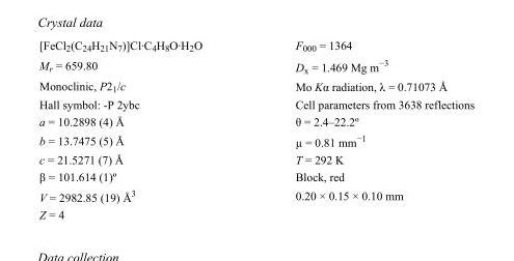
<table><tbody><tr><td>[FeCl<sub>2</sub>(C<sub>24</sub>H<sub>21</sub>N<sub>7</sub>)]Cl·C<sub>4</sub>H<sub>8</sub>O·H<sub>2</sub>O</td><td>F000 = 1364</td></tr><tr><td>M<sub>r</sub> = 659.80</td><td>D<sub>x</sub> = 1.469 Mg m<sup>−3</sup></td></tr><tr><td>Monoclinic, P2<sub>1</sub>/c</td><td>Mo Kα radiation, λ = 0.71073 Å</td></tr><tr><td>Hall symbol: -P 2ybc</td><td>Cell parameters from 3638 reflections</td></tr><tr><td>a = 10.2898 (4) Å</td><td>θ = 2.4–22.2º</td></tr><tr><td>b = 13.7475 (5) Å</td><td>µ = 0.81 mm<sup>−1</sup></td></tr><tr><td>c = 21.5271 (7) Å</td><td>T = 292 K</td></tr><tr><td>β = 101.614 (1)º</td><td>Block, red</td></tr><tr><td>V = 2982.85 (19) Å<sup>3</sup></td><td>0.20 × 0.15 × 0.10 mm</td></tr><tr><td>Z = 4</td><td></td></tr></tbody></table>